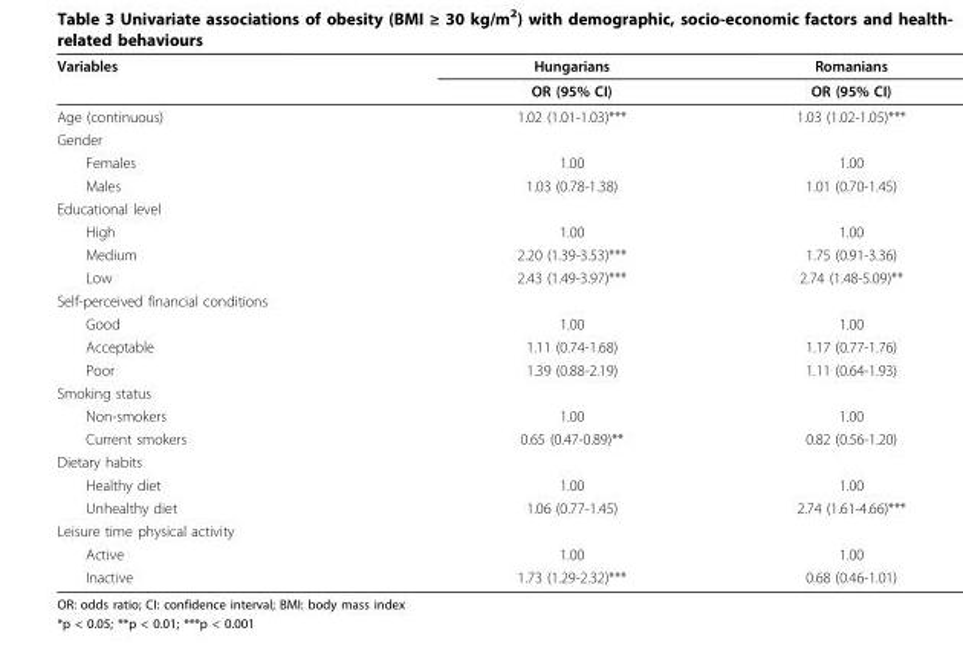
<table><thead><tr><td rowspan="2">Variables</td><td rowspan="2">Hungarians OR (95% CI)</td><td rowspan="2">Romanians OR (95% CI)</td></tr><tr></tr></thead><tbody><tr><td>Age (continuous)</td><td>1.02 (1.01-1.03)***</td><td>1.03 (1.02-1.05)***</td></tr><tr><td colspan="3">Gender</td></tr><tr><td>Females</td><td>1.00</td><td>1.00</td></tr><tr><td>Males</td><td>1.03 (0.78-1.38)</td><td>1.01 (0.70-1.45)</td></tr><tr><td colspan="3">Educational level</td></tr><tr><td>High</td><td>1.00</td><td>1.00</td></tr><tr><td>Medium</td><td>2.20 (1.39-3.53)***</td><td>1.75 (0.91-3.36)</td></tr><tr><td>Low</td><td>2.43 (1.49-3.97)***</td><td>2.74 (1.48-5.09)**</td></tr><tr><td colspan="3">Self-perceived financial conditions</td></tr><tr><td>Good</td><td>1.00</td><td>1.00</td></tr><tr><td>Acceptable</td><td>1.11 (0.74-1.68)</td><td>1.17 (0.77-1.76)</td></tr><tr><td>Poor</td><td>1.39 (0.88-2.19)</td><td>1.11 (0.64-1.93)</td></tr><tr><td colspan="3">Smoking status</td></tr><tr><td>Non-smokers</td><td>1.00</td><td>1.00</td></tr><tr><td>Current smokers</td><td>0.65 (0.47-0.89)**</td><td>0.82 (0.56-1.20)</td></tr><tr><td colspan="3">Dietary habits</td></tr><tr><td>Healthy diet</td><td>1.00</td><td>1.00</td></tr><tr><td>Unhealthy diet</td><td>1.06 (0.77-1.45)</td><td>2.74 (1.61-4.66)***</td></tr><tr><td colspan="3">Leisure time physical activity</td></tr><tr><td>Active</td><td>1.00</td><td>1.00</td></tr><tr><td>Inactive</td><td>1.73 (1.29-2.32)***</td><td>0.68 (0.46-1.01)</td></tr></tbody></table>